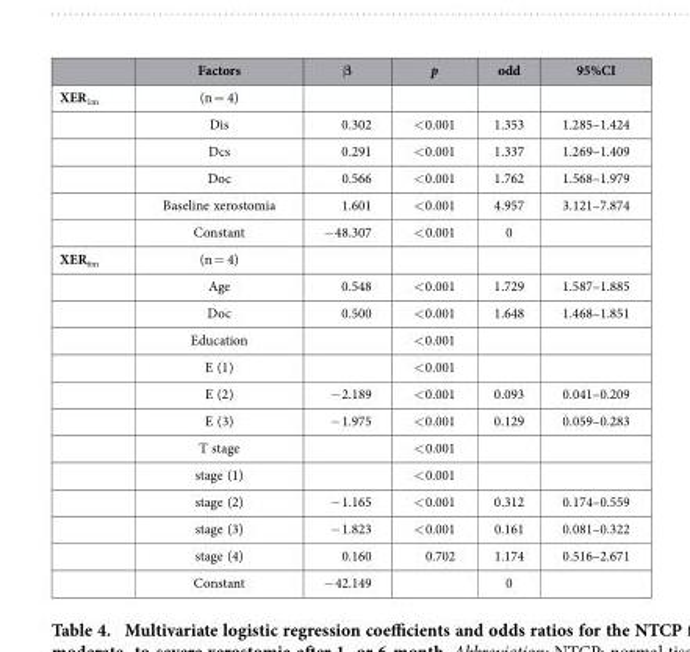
<table><thead><tr><td></td><td>Factors</td><td>β</td><td>p</td><td>odd</td><td>95%CI</td></tr></thead><tbody><tr><td rowspan="6">XER<sub>1m</sub></td><td>(n = 4)</td><td></td><td></td><td></td><td></td></tr><tr><td>Dis</td><td>0.302</td><td>&lt; 0.001</td><td>1.353</td><td>1.285–1.424</td></tr><tr><td>Dcs</td><td>0.291</td><td>&lt; 0.001</td><td>1.337</td><td>1.269–1.409</td></tr><tr><td>Doc</td><td>0.566</td><td>&lt; 0.001</td><td>1.762</td><td>1.568–1.979</td></tr><tr><td>Baseline xerostomia</td><td>1.601</td><td>&lt; 0.001</td><td>4.957</td><td>3.121–7.874</td></tr><tr><td>Constant</td><td>− 48.307</td><td>&lt; 0.001</td><td>0</td><td></td></tr><tr><td rowspan="13">XER<sub>6m</sub></td><td>(n = 4)</td><td></td><td></td><td></td><td></td></tr><tr><td>Age</td><td>0.548</td><td>&lt; 0.001</td><td>1.729</td><td>1.587–1.885</td></tr><tr><td>Doc</td><td>0.500</td><td>&lt; 0.001</td><td>1.648</td><td>1.468–1.851</td></tr><tr><td>Education</td><td></td><td>&lt; 0.001</td><td></td><td></td></tr><tr><td>E (1)</td><td></td><td>&lt; 0.001</td><td></td><td></td></tr><tr><td>E (2)</td><td>− 2.189</td><td>&lt; 0.001</td><td>0.093</td><td>0.041–0.209</td></tr><tr><td>E (3)</td><td>− 1.975</td><td>&lt; 0.001</td><td>0.129</td><td>0.059–0.283</td></tr><tr><td>T stage</td><td></td><td>&lt; 0.001</td><td></td><td></td></tr><tr><td>stage (1)</td><td></td><td>&lt; 0.001</td><td></td><td></td></tr><tr><td>stage (2)</td><td>− 1.165</td><td>&lt; 0.001</td><td>0.312</td><td>0.174–0.559</td></tr><tr><td>stage (3)</td><td>− 1.823</td><td>&lt; 0.001</td><td>0.161</td><td>0.081–0.322</td></tr><tr><td>stage (4)</td><td>0.160</td><td>0.702</td><td>1.174</td><td>0.516–2.671</td></tr><tr><td>Constant</td><td>− 42.149</td><td></td><td>0</td><td></td></tr></tbody></table>